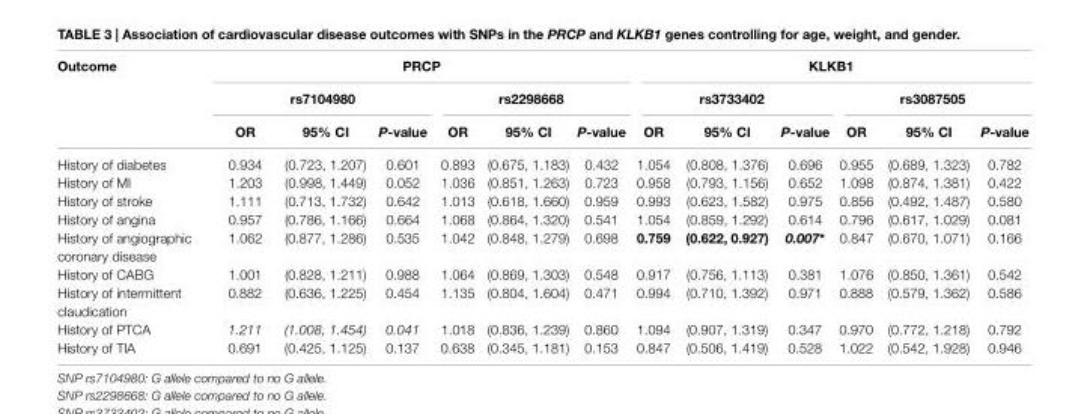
<table><thead><tr><td rowspan="3">Outcome</td><td colspan="6">PrcP</td><td colspan="6">KlKB1</td></tr><tr><td colspan="3">rs7104980</td><td colspan="3">rs2298668</td><td colspan="3">rs3733402</td><td colspan="3">rs3087505</td></tr><tr><td>Or</td><td>95% ci</td><td>P-value</td><td>Or</td><td>95% ci</td><td>P-value</td><td>Or</td><td>95% ci</td><td>P-value</td><td>Or</td><td>95% ci</td><td>P-value</td></tr></thead><tbody><tr><td>History of diabetes</td><td>0.934</td><td>(0.723, 1.207)</td><td>0.601</td><td>0.893</td><td>(0.675, 1.183)</td><td>0.432</td><td>1.054</td><td>(0.808, 1.376)</td><td>0.696</td><td>0.955</td><td>(0.689, 1.323)</td><td>0.782</td></tr><tr><td>History of MI</td><td>1.203</td><td>(0.998, 1.449)</td><td>0.052</td><td>1.036</td><td>(0.851, 1.263)</td><td>0.723</td><td>0.958</td><td>(0.793, 1.156)</td><td>0.652</td><td>1.098</td><td>(0.874, 1.381)</td><td>0.422</td></tr><tr><td>History of stroke</td><td>1.111</td><td>(0.713, 1.732)</td><td>0.642</td><td>1.013</td><td>(0.618, 1.660)</td><td>0.959</td><td>0.993</td><td>(0.623, 1.582)</td><td>0.975</td><td>0.856</td><td>(0.492, 1.487)</td><td>0.580</td></tr><tr><td>History of angina</td><td>0.957</td><td>(0.786, 1.166)</td><td>0.664</td><td>1.068</td><td>(0.864, 1.320)</td><td>0.541</td><td>1.054</td><td>(0.859, 1.292)</td><td>0.614</td><td>0.796</td><td>(0.617, 1.029)</td><td>0.081</td></tr><tr><td>History of angiographic coronary disease</td><td>1.062</td><td>(0.877, 1.286)</td><td>0.535</td><td>1.042</td><td>(0.848, 1.279)</td><td>0.698</td><td>0.759</td><td>(0.622, 0.927)</td><td>0.007*</td><td>0.847</td><td>(0.670, 1.071)</td><td>0.166</td></tr><tr><td>History of CABG</td><td>1.001</td><td>(0.828, 1.211)</td><td>0.988</td><td>1.064</td><td>(0.869, 1.303)</td><td>0.548</td><td>0.917</td><td>(0.756, 1.113)</td><td>0.381</td><td>1.076</td><td>(0.850, 1.361)</td><td>0.542</td></tr><tr><td>History of intermittent claudication</td><td>0.882</td><td>(0.636, 1.225)</td><td>0.454</td><td>1.135</td><td>(0.804, 1.604)</td><td>0.471</td><td>0.994</td><td>(0.710, 1.392)</td><td>0.971</td><td>0.888</td><td>(0.579, 1.362)</td><td>0.586</td></tr><tr><td>History of PTCA</td><td>1.211</td><td>(1.008, 1.454)</td><td>0.041</td><td>1.018</td><td>(0.836, 1.239)</td><td>0.860</td><td>1.094</td><td>(0.907, 1.319)</td><td>0.347</td><td>0.970</td><td>(0.772, 1.218)</td><td>0.792</td></tr><tr><td>History of TIA</td><td>0.691</td><td>(0.425, 1.125)</td><td>0.137</td><td>0.638</td><td>(0.345, 1.181)</td><td>0.153</td><td>0.847</td><td>(0.506, 1.419)</td><td>0.528</td><td>1.022</td><td>(0.542, 1.928)</td><td>0.946</td></tr></tbody></table>